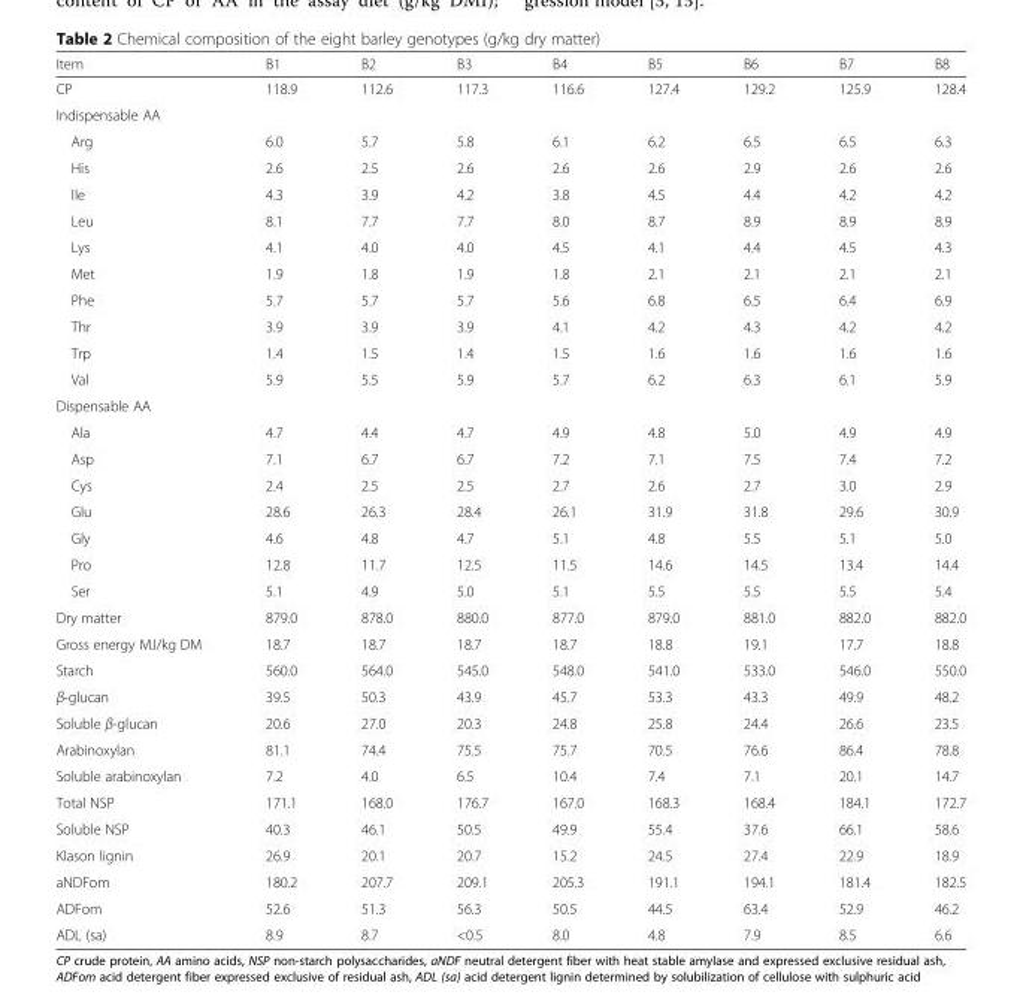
<table><thead><tr><td>Item</td><td>B1</td><td>B2</td><td>B3</td><td>B4</td><td>B5</td><td>B6</td><td>B7</td><td>B8</td></tr></thead><tbody><tr><td>CP</td><td>118.9</td><td>112.6</td><td>117.3</td><td>116.6</td><td>127.4</td><td>129.2</td><td>125.9</td><td>128.4</td></tr><tr><td colspan="9">Indispensable AA</td></tr><tr><td>Arg</td><td>6.0</td><td>5.7</td><td>5.8</td><td>6.1</td><td>6.2</td><td>6.5</td><td>6.5</td><td>6.3</td></tr><tr><td>His</td><td>2.6</td><td>2.5</td><td>2.6</td><td>2.6</td><td>2.6</td><td>2.9</td><td>2.6</td><td>2.6</td></tr><tr><td>Ile</td><td>4.3</td><td>3.9</td><td>4.2</td><td>3.8</td><td>4.5</td><td>4.4</td><td>4.2</td><td>4.2</td></tr><tr><td>Leu</td><td>8.1</td><td>7.7</td><td>7.7</td><td>8.0</td><td>8.7</td><td>8.9</td><td>8.9</td><td>8.9</td></tr><tr><td>Lys</td><td>4.1</td><td>4.0</td><td>4.0</td><td>4.5</td><td>4.1</td><td>4.4</td><td>4.5</td><td>4.3</td></tr><tr><td>Met</td><td>1.9</td><td>1.8</td><td>1.9</td><td>1.8</td><td>2.1</td><td>2.1</td><td>2.1</td><td>2.1</td></tr><tr><td>Phe</td><td>5.7</td><td>5.7</td><td>5.7</td><td>5.6</td><td>6.8</td><td>6.5</td><td>6.4</td><td>6.9</td></tr><tr><td>Thr</td><td>3.9</td><td>3.9</td><td>3.9</td><td>4.1</td><td>4.2</td><td>4.3</td><td>4.2</td><td>4.2</td></tr><tr><td>Trp</td><td>1.4</td><td>1.5</td><td>1.4</td><td>1.5</td><td>1.6</td><td>1.6</td><td>1.6</td><td>1.6</td></tr><tr><td>Val</td><td>5.9</td><td>5.5</td><td>5.9</td><td>5.7</td><td>6.2</td><td>6.3</td><td>6.1</td><td>5.9</td></tr><tr><td colspan="9">Dispensable AA</td></tr><tr><td>Ala</td><td>4.7</td><td>4.4</td><td>4.7</td><td>4.9</td><td>4.8</td><td>5.0</td><td>4.9</td><td>4.9</td></tr><tr><td>Asp</td><td>7.1</td><td>6.7</td><td>6.7</td><td>7.2</td><td>7.1</td><td>7.5</td><td>7.4</td><td>7.2</td></tr><tr><td>Cys</td><td>2.4</td><td>2.5</td><td>2.5</td><td>2.7</td><td>2.6</td><td>2.7</td><td>3.0</td><td>2.9</td></tr><tr><td>Glu</td><td>28.6</td><td>26.3</td><td>28.4</td><td>26.1</td><td>31.9</td><td>31.8</td><td>29.6</td><td>30.9</td></tr><tr><td>Gly</td><td>4.6</td><td>4.8</td><td>4.7</td><td>5.1</td><td>4.8</td><td>5.5</td><td>5.1</td><td>5.0</td></tr><tr><td>Pro</td><td>12.8</td><td>11.7</td><td>12.5</td><td>11.5</td><td>14.6</td><td>14.5</td><td>13.4</td><td>14.4</td></tr><tr><td>Ser</td><td>5.1</td><td>4.9</td><td>5.0</td><td>5.1</td><td>5.5</td><td>5.5</td><td>5.5</td><td>5.4</td></tr><tr><td>Dry matter</td><td>879.0</td><td>878.0</td><td>880.0</td><td>877.0</td><td>879.0</td><td>881.0</td><td>882.0</td><td>882.0</td></tr><tr><td>Gross energy MJ/kg DM</td><td>18.7</td><td>18.7</td><td>18.7</td><td>18.7</td><td>18.8</td><td>19.1</td><td>17.7</td><td>18.8</td></tr><tr><td>Starch</td><td>560.0</td><td>564.0</td><td>545.0</td><td>548.0</td><td>541.0</td><td>533.0</td><td>546.0</td><td>550.0</td></tr><tr><td>β-glucan</td><td>39.5</td><td>50.3</td><td>43.9</td><td>45.7</td><td>53.3</td><td>43.3</td><td>49.9</td><td>48.2</td></tr><tr><td>Soluble β-glucan</td><td>20.6</td><td>27.0</td><td>20.3</td><td>24.8</td><td>25.8</td><td>24.4</td><td>26.6</td><td>23.5</td></tr><tr><td>Arabinoxylan</td><td>81.1</td><td>74.4</td><td>75.5</td><td>75.7</td><td>70.5</td><td>76.6</td><td>86.4</td><td>78.8</td></tr><tr><td>Soluble arabinoxylan</td><td>7.2</td><td>4.0</td><td>6.5</td><td>10.4</td><td>7.4</td><td>7.1</td><td>20.1</td><td>14.7</td></tr><tr><td>Total NSP</td><td>171.1</td><td>168.0</td><td>176.7</td><td>167.0</td><td>168.3</td><td>168.4</td><td>184.1</td><td>172.7</td></tr><tr><td>Soluble NSP</td><td>40.3</td><td>46.1</td><td>50.5</td><td>49.9</td><td>55.4</td><td>37.6</td><td>66.1</td><td>58.6</td></tr><tr><td>Klason lignin</td><td>26.9</td><td>20.1</td><td>20.7</td><td>15.2</td><td>24.5</td><td>27.4</td><td>22.9</td><td>18.9</td></tr><tr><td>aNDFom</td><td>180.2</td><td>207.7</td><td>209.1</td><td>205.3</td><td>191.1</td><td>194.1</td><td>181.4</td><td>182.5</td></tr><tr><td>ADFom</td><td>52.6</td><td>51.3</td><td>56.3</td><td>50.5</td><td>44.5</td><td>63.4</td><td>52.9</td><td>46.2</td></tr><tr><td>ADL (sa)</td><td>8.9</td><td>8.7</td><td>&lt;0.5</td><td>8.0</td><td>4.8</td><td>7.9</td><td>8.5</td><td>6.6</td></tr></tbody></table>